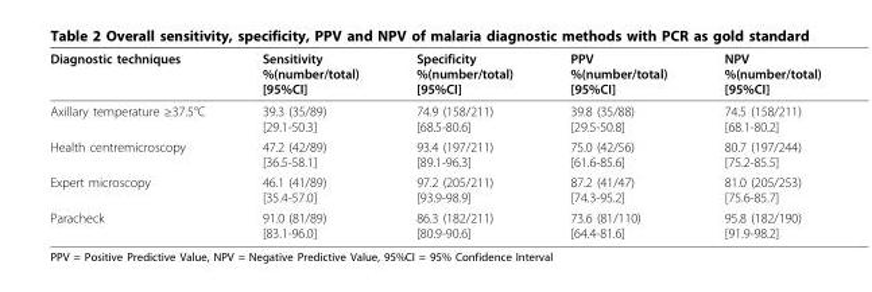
<table><thead><tr><td>Diagnostic techniques</td><td>Sensitivity %(number/total) [95%CI]</td><td>Specificity %(number/total) [95%CI]</td><td>PPV %(number/total) [95%CI]</td><td>NPV %(number/total) [95%CI]</td></tr></thead><tbody><tr><td>Axillary temperature ≥37.5°C</td><td>39.3 (35/89) [29.1-50.3]</td><td>74.9 (158/211) [68.5-80.6]</td><td>39.8 (35/88) [29.5-50.8]</td><td>74.5 (158/211) [68.1-80.2]</td></tr><tr><td>Health centremicroscopy</td><td>47.2 (42/89) [36.5-58.1]</td><td>93.4 (197/211) [89.1-96.3]</td><td>75.0 (42/56) [61.6-85.6]</td><td>80.7 (197/244) [75.2-85.5]</td></tr><tr><td>Expert microscopy</td><td>46.1 (41/89) [35.4-57.0]</td><td>97.2 (205/211) [93.9-98.9]</td><td>87.2 (41/47) [74.3-95.2]</td><td>81.0 (205/253) [75.6-85.7]</td></tr><tr><td>Paracheck</td><td>91.0 (81/89) [83.1-96.0]</td><td>86.3 (182/211) [80.9-90.6]</td><td>73.6 (81/110) [64.4-81.6]</td><td>95.8 (182/190) [91.9-98.2]</td></tr></tbody></table>